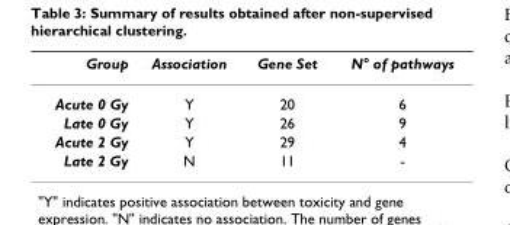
<table><thead><tr><td>Group</td><td>Association</td><td>Gene Set</td><td>N° of pathways</td></tr></thead><tbody><tr><td>Acute 0 Gy</td><td>Y</td><td>20</td><td>6</td></tr><tr><td>Late 0 Gy</td><td>Y</td><td>26</td><td>9</td></tr><tr><td>Acute 2 Gy</td><td>Y</td><td>29</td><td>4</td></tr><tr><td>Late 2 Gy</td><td>N</td><td>11</td><td>-</td></tr></tbody></table>